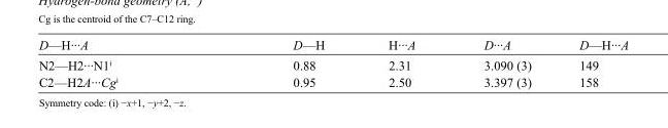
<table><tbody><tr><td>D—H···A</td><td>D—H</td><td>H···A</td><td>D···A</td><td>D—H···A</td></tr><tr><td>N2—H2···N1<sup>i</sup></td><td>0.88</td><td>2.31</td><td>3.090 (3)</td><td>149</td></tr><tr><td>C2—H2A···Cg<sup>i</sup></td><td>0.95</td><td>2.50</td><td>3.397 (3)</td><td>158</td></tr></tbody></table>